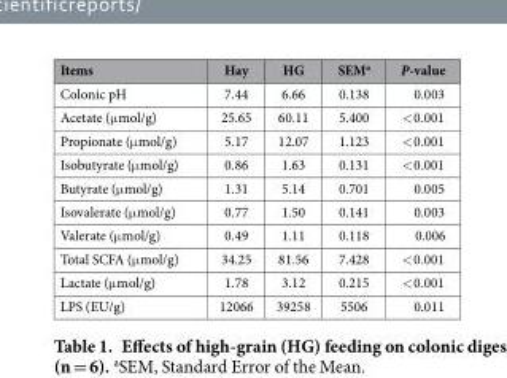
<table><thead><tr><td>Items</td><td>Hay</td><td>HG</td><td>SEM<sup>a</sup></td><td>P-value</td></tr></thead><tbody><tr><td>Colonic pH</td><td>7.44</td><td>6.66</td><td>0.138</td><td>0.003</td></tr><tr><td>Acetate (μ mol/g)</td><td>25.65</td><td>60.11</td><td>5.400</td><td>&lt; 0.001</td></tr><tr><td>Propionate (μ mol/g)</td><td>5.17</td><td>12.07</td><td>1.123</td><td>&lt; 0.001</td></tr><tr><td>Isobutyrate (μ mol/g)</td><td>0.86</td><td>1.63</td><td>0.131</td><td>&lt; 0.001</td></tr><tr><td>Butyrate (μ mol/g)</td><td>1.31</td><td>5.14</td><td>0.701</td><td>0.005</td></tr><tr><td>Isovalerate (μ mol/g)</td><td>0.77</td><td>1.50</td><td>0.141</td><td>0.003</td></tr><tr><td>Valerate (μ mol/g)</td><td>0.49</td><td>1.11</td><td>0.118</td><td>0.006</td></tr><tr><td>Total SCFA (μ mol/g)</td><td>34.25</td><td>81.56</td><td>7.428</td><td>&lt; 0.001</td></tr><tr><td>Lactate (μ mol/g)</td><td>1.78</td><td>3.12</td><td>0.215</td><td>&lt; 0.001</td></tr><tr><td>LPS (EU/g)</td><td>12066</td><td>39258</td><td>5506</td><td>0.011</td></tr></tbody></table>